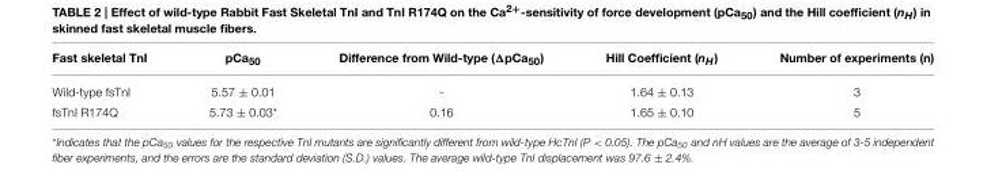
<table><thead><tr><td>Fast skeletal TnI</td><td>pCa<sub>50</sub></td><td>Difference from Wild-type (ΔpCa<sub>50</sub>)</td><td>Hill Coefficient (n<sub>H</sub>)</td><td>Number of experiments (n)</td></tr></thead><tbody><tr><td>Wild-type fsTnI</td><td>5.57 ± 0.01</td><td>-</td><td>1.64 ± 0.13</td><td>3</td></tr><tr><td>fsTnI R174Q</td><td>5.73 ± 0.03*</td><td>0.16</td><td>1.65 ± 0.10</td><td>5</td></tr></tbody></table>